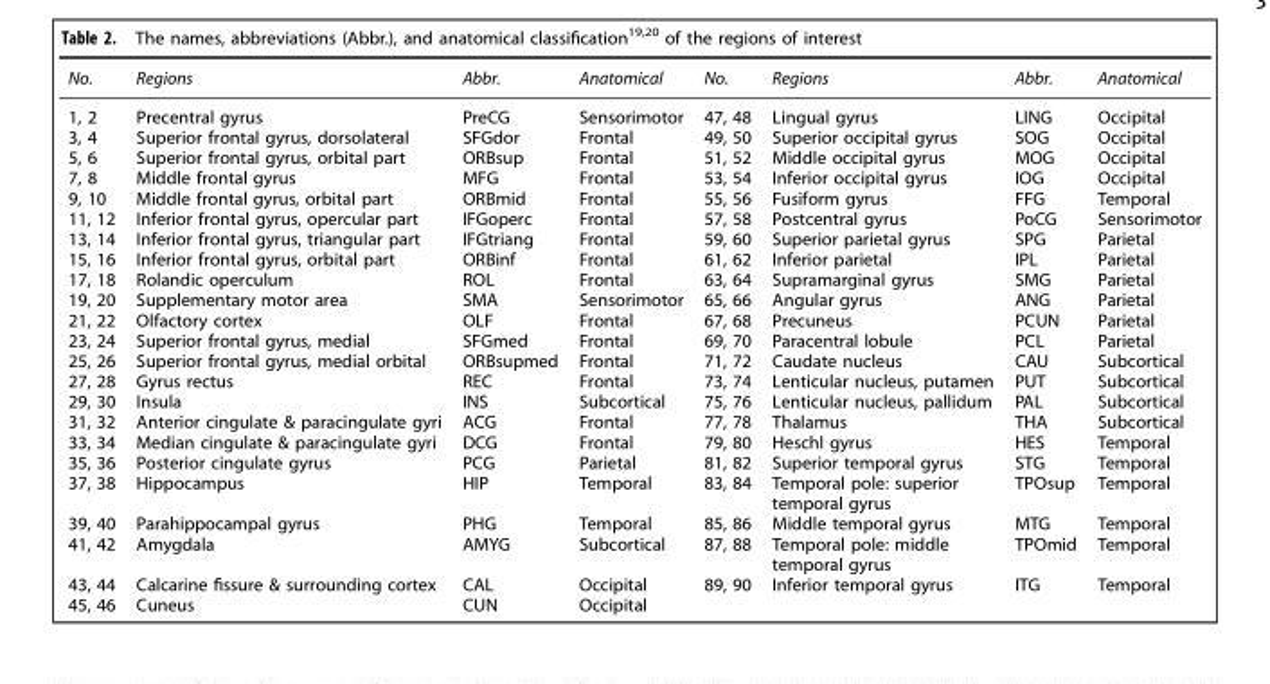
<table><thead><tr><td>No.</td><td>Regions</td><td>Abbr.</td><td>Anatomical</td><td>No.</td><td>Regions</td><td>Abbr.</td><td>Anatomical</td></tr></thead><tbody><tr><td>1, 2</td><td>Precentral gyrus</td><td>PreCG</td><td>Sensorimotor</td><td>47, 48</td><td>Lingual gyrus</td><td>LING</td><td>Occipital</td></tr><tr><td>3, 4</td><td>Superior frontal gyrus, dorsolateral</td><td>SFGdor</td><td>Frontal</td><td>49, 50</td><td>Superior occipital gyrus</td><td>SOG</td><td>Occipital</td></tr><tr><td>5, 6</td><td>Superior frontal gyrus, orbital part</td><td>ORBsup</td><td>Frontal</td><td>51, 52</td><td>Middle occipital gyrus</td><td>MOG</td><td>Occipital</td></tr><tr><td>7, 8</td><td>Middle frontal gyrus</td><td>MFG</td><td>Frontal</td><td>53, 54</td><td>Inferior occipital gyrus</td><td>IOG</td><td>Occipital</td></tr><tr><td>9, 10</td><td>Middle frontal gyrus, orbital part</td><td>ORBmid</td><td>Frontal</td><td>55, 56</td><td>Fusiform gyrus</td><td>FFG</td><td>Temporal</td></tr><tr><td>11, 12</td><td>Inferior frontal gyrus, opercular part</td><td>IFGoperc</td><td>Frontal</td><td>57, 58</td><td>Postcentral gyrus</td><td>PoCG</td><td>Sensorimotor</td></tr><tr><td>13, 14</td><td>Inferior frontal gyrus, triangular part</td><td>IFGtriang</td><td>Frontal</td><td>59, 60</td><td>Superior parietal gyrus</td><td>SPG</td><td>Parietal</td></tr><tr><td>15, 16</td><td>Inferior frontal gyrus, orbital part</td><td>ORBinf</td><td>Frontal</td><td>61, 62</td><td>Inferior parietal</td><td>IPL</td><td>Parietal</td></tr><tr><td>17, 18</td><td>Rolandic operculum</td><td>ROL</td><td>Frontal</td><td>63, 64</td><td>Supramarginal gyrus</td><td>SMG</td><td>Parietal</td></tr><tr><td>19, 20</td><td>Supplementary motor area</td><td>SMA</td><td>Sensorimotor</td><td>65, 66</td><td>Angular gyrus</td><td>ANG</td><td>Parietal</td></tr><tr><td>21, 22</td><td>Olfactory cortex</td><td>OLF</td><td>Frontal</td><td>67, 68</td><td>Precuneus</td><td>PCUN</td><td>Parietal</td></tr><tr><td>23, 24</td><td>Superior frontal gyrus, medial</td><td>SFGmed</td><td>Frontal</td><td>69, 70</td><td>Paracentral lobule</td><td>PCL</td><td>Parietal</td></tr><tr><td>25, 26</td><td>Superior frontal gyrus, medial orbital</td><td>ORBsupmed</td><td>Frontal</td><td>71, 72</td><td>Caudate nucleus</td><td>CAU</td><td>Subcortical</td></tr><tr><td>27, 28</td><td>Gyrus rectus</td><td>REC</td><td>Frontal</td><td>73, 74</td><td>Lenticular nucleus, putamen</td><td>PUT</td><td>Subcortical</td></tr><tr><td>29, 30</td><td>Insula</td><td>INS</td><td>Subcortical</td><td>75, 76</td><td>Lenticular nucleus, pallidum</td><td>PAL</td><td>Subcortical</td></tr><tr><td>31, 32</td><td>Anterior cingulate &amp; paracingulate gyri</td><td>ACG</td><td>Frontal</td><td>77, 78</td><td>Thalamus</td><td>THA</td><td>Subcortical</td></tr><tr><td>33, 34</td><td>Median cingulate &amp; paracingulate gyri</td><td>DCG</td><td>Frontal</td><td>79, 80</td><td>Heschl gyrus</td><td>HES</td><td>Temporal</td></tr><tr><td>35, 36</td><td>Posterior cingulate gyrus</td><td>PCG</td><td>Parietal</td><td>81, 82</td><td>Superior temporal gyrus</td><td>STG</td><td>Temporal</td></tr><tr><td>37, 38</td><td>Hippocampus</td><td>HIP</td><td>Temporal</td><td>83, 84</td><td>Temporal pole: superior temporal gyrus</td><td>TPOsup</td><td>Temporal</td></tr><tr><td>39, 40</td><td>Parahippocampal gyrus</td><td>PHG</td><td>Temporal</td><td>85, 86</td><td>Middle temporal gyrus</td><td>MTG</td><td>Temporal</td></tr><tr><td>41, 42</td><td>Amygdala</td><td>AMYG</td><td>Subcortical</td><td>87, 88</td><td>Temporal pole: middle temporal gyrus</td><td>TPOmid</td><td>Temporal</td></tr><tr><td>43, 44</td><td>Calcarine fissure &amp; surrounding cortex</td><td>CAL</td><td>Occipital</td><td>89, 90</td><td>Inferior temporal gyrus</td><td>ITG</td><td>Temporal</td></tr><tr><td>45, 46</td><td>Cuneus</td><td>CUN</td><td>Occipital</td><td></td><td></td><td></td><td></td></tr></tbody></table>